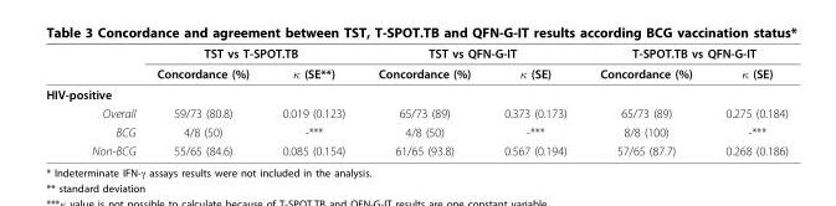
<table><thead><tr><td rowspan="2"></td><td colspan="2">TST vs T-SPOT.TB</td><td colspan="2">TST vs QFN-G-IT</td><td colspan="2">T-SPOT.TB vs QFN-G-IT</td></tr><tr><td>Concordance (%)</td><td>κ (SE**)</td><td>Concordance (%)</td><td>κ (SE)</td><td>Concordance (%)</td><td>κ (SE)</td></tr></thead><tbody><tr><td colspan="7">HIV-positive</td></tr><tr><td>Overall</td><td>59/73 (80.8)</td><td>0.019 (0.123)</td><td>65/73 (89)</td><td>0.373 (0.173)</td><td>65/73 (89)</td><td>0.275 (0.184)</td></tr><tr><td>BCG</td><td>4/8 (50)</td><td>-***</td><td>4/8 (50)</td><td>-***</td><td>8/8 (100)</td><td>-***</td></tr><tr><td>Non-BCG</td><td>55/65 (84.6)</td><td>0.085 (0.154)</td><td>61/65 (93.8)</td><td>0.567 (0.194)</td><td>57/65 (87.7)</td><td>0.268 (0.186)</td></tr></tbody></table>